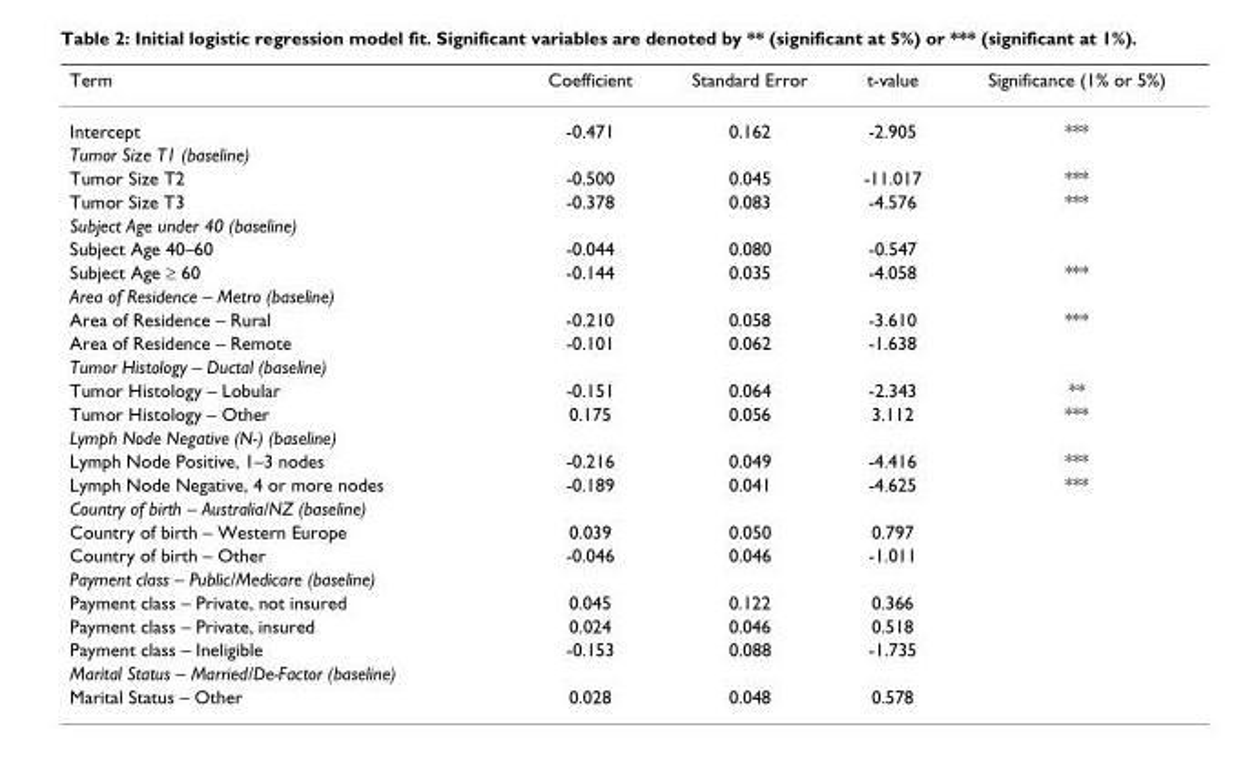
<table><thead><tr><td>Term</td><td>Coefficient</td><td>Standard Error</td><td>t-value</td><td>Significance (1% or 5%)</td></tr></thead><tbody><tr><td>Intercept</td><td>-0.471</td><td>0.162</td><td>-2.905</td><td>***</td></tr><tr><td colspan="5">Tumor Size T1 (baseline)</td></tr><tr><td>Tumor Size T2</td><td>-0.500</td><td>0.045</td><td>-11.017</td><td>***</td></tr><tr><td>Tumor Size T3</td><td>-0.378</td><td>0.083</td><td>-4.576</td><td>***</td></tr><tr><td colspan="5">Subject Age under 40 (baseline)</td></tr><tr><td>Subject Age 40–60</td><td>-0.044</td><td>0.080</td><td>-0.547</td><td></td></tr><tr><td>Subject Age ≥ 60</td><td>-0.144</td><td>0.035</td><td>-4.058</td><td>***</td></tr><tr><td colspan="5">Area of Residence – Metro (baseline)</td></tr><tr><td>Area of Residence – Rural</td><td>-0.210</td><td>0.058</td><td>-3.610</td><td>***</td></tr><tr><td>Area of Residence – Remote</td><td>-0.101</td><td>0.062</td><td>-1.638</td><td></td></tr><tr><td colspan="5">Tumor Histology – Ductal (baseline)</td></tr><tr><td>Tumor Histology – Lobular</td><td>-0.151</td><td>0.064</td><td>-2.343</td><td>**</td></tr><tr><td>Tumor Histology – Other</td><td>0.175</td><td>0.056</td><td>3.112</td><td>***</td></tr><tr><td colspan="5">Lymph Node Negative (N-) (baseline)</td></tr><tr><td>Lymph Node Positive, 1–3 nodes</td><td>-0.216</td><td>0.049</td><td>-4.416</td><td>***</td></tr><tr><td>Lymph Node Negative, 4 or more nodes</td><td>-0.189</td><td>0.041</td><td>-4.625</td><td>***</td></tr><tr><td colspan="5">Country of birth – Australia/NZ (baseline)</td></tr><tr><td>Country of birth – Western Europe</td><td>0.039</td><td>0.050</td><td>0.797</td><td></td></tr><tr><td>Country of birth – Other</td><td>-0.046</td><td>0.046</td><td>-1.011</td><td></td></tr><tr><td colspan="5">Payment class – Public/Medicare (baseline)</td></tr><tr><td>Payment class – Private, not insured</td><td>0.045</td><td>0.122</td><td>0.366</td><td></td></tr><tr><td>Payment class – Private, insured</td><td>0.024</td><td>0.046</td><td>0.518</td><td></td></tr><tr><td>Payment class – Ineligible</td><td>-0.153</td><td>0.088</td><td>-1.735</td><td></td></tr><tr><td colspan="5">Marital Status – Married/De-Factor (baseline)</td></tr><tr><td>Marital Status – Other</td><td>0.028</td><td>0.048</td><td>0.578</td><td></td></tr></tbody></table>